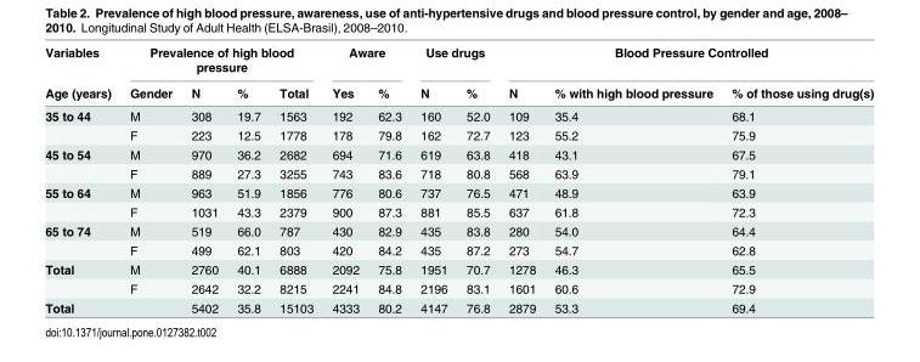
<table><thead><tr><td rowspan="2">Variables Age (years)</td><td colspan="4">Prevalence of high blood pressure</td><td colspan="2">Aware</td><td colspan="2">Use drugs</td><td colspan="3">Blood Pressure Controlled</td></tr><tr><td>Gender</td><td>N</td><td>%</td><td>Total</td><td>Yes</td><td>%</td><td>N</td><td>%</td><td>N</td><td>% with high blood pressure</td><td>% of those using drug(s)</td></tr></thead><tbody><tr><td rowspan="2">35 to 44</td><td>M</td><td>308</td><td>19.7</td><td>1563</td><td>192</td><td>62.3</td><td>160</td><td>52.0</td><td>109</td><td>35.4</td><td>68.1</td></tr><tr><td>F</td><td>223</td><td>12.5</td><td>1778</td><td>178</td><td>79.8</td><td>162</td><td>72.7</td><td>123</td><td>55.2</td><td>75.9</td></tr><tr><td rowspan="2">45 to 54</td><td>M</td><td>970</td><td>36.2</td><td>2682</td><td>694</td><td>71.6</td><td>619</td><td>63.8</td><td>418</td><td>43.1</td><td>67.5</td></tr><tr><td>F</td><td>889</td><td>27.3</td><td>3255</td><td>743</td><td>83.6</td><td>718</td><td>80.8</td><td>568</td><td>63.9</td><td>79.1</td></tr><tr><td rowspan="2">55 to 64</td><td>M</td><td>963</td><td>51.9</td><td>1856</td><td>776</td><td>80.6</td><td>737</td><td>76.5</td><td>471</td><td>48.9</td><td>63.9</td></tr><tr><td>F</td><td>1031</td><td>43.3</td><td>2379</td><td>900</td><td>87.3</td><td>881</td><td>85.5</td><td>637</td><td>61.8</td><td>72.3</td></tr><tr><td rowspan="2">65 to 74</td><td>M</td><td>519</td><td>66.0</td><td>787</td><td>430</td><td>82.9</td><td>435</td><td>83.8</td><td>280</td><td>54.0</td><td>64.4</td></tr><tr><td>F</td><td>499</td><td>62.1</td><td>803</td><td>420</td><td>84.2</td><td>435</td><td>87.2</td><td>273</td><td>54.7</td><td>62.8</td></tr><tr><td rowspan="2">Total</td><td>M</td><td>2760</td><td>40.1</td><td>6888</td><td>2092</td><td>75.8</td><td>1951</td><td>70.7</td><td>1278</td><td>46.3</td><td>65.5</td></tr><tr><td>F</td><td>2642</td><td>32.2</td><td>8215</td><td>2241</td><td>84.8</td><td>2196</td><td>83.1</td><td>1601</td><td>60.6</td><td>72.9</td></tr><tr><td>Total</td><td></td><td>5402</td><td>35.8</td><td>15103</td><td>4333</td><td>80.2</td><td>4147</td><td>76.8</td><td>2879</td><td>53.3</td><td>69.4</td></tr></tbody></table>